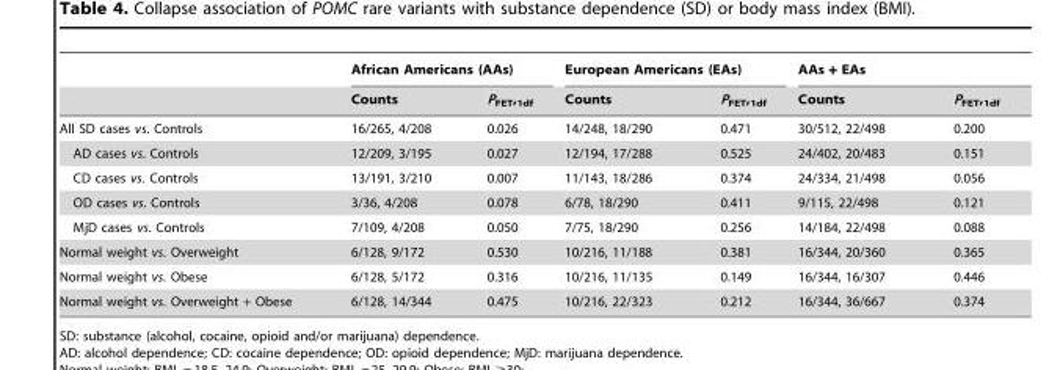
<table><thead><tr><td rowspan="2"></td><td colspan="2">African Americans (AAs)</td><td colspan="2">European Americans (EAs)</td><td colspan="2">AAs + EAs</td></tr><tr><td>Counts</td><td>P<sub>FET</sub>,<sub>1df</sub></td><td>Counts</td><td>P<sub>FET</sub>,<sub>1df</sub></td><td>Counts</td><td>P<sub>FET</sub>,<sub>1df</sub></td></tr></thead><tbody><tr><td>All SD cases vs. Controls</td><td>16/265, 4/208</td><td>0.026</td><td>14/248, 18/290</td><td>0.471</td><td>30/512, 22/498</td><td>0.200</td></tr><tr><td>AD cases vs. Controls</td><td>12/209, 3/195</td><td>0.027</td><td>12/194, 17/288</td><td>0.525</td><td>24/402, 20/483</td><td>0.151</td></tr><tr><td>CD cases vs. Controls</td><td>13/191, 3/210</td><td>0.007</td><td>11/143, 18/286</td><td>0.374</td><td>24/334, 21/498</td><td>0.056</td></tr><tr><td>OD cases vs. Controls</td><td>3/36, 4/208</td><td>0.078</td><td>6/78, 18/290</td><td>0.411</td><td>9/115, 22/498</td><td>0.121</td></tr><tr><td>MjD cases vs. Controls</td><td>7/109, 4/208</td><td>0.050</td><td>7/75, 18/290</td><td>0.256</td><td>14/184, 22/498</td><td>0.088</td></tr><tr><td>Normal weight vs. Overweight</td><td>6/128, 9/172</td><td>0.530</td><td>10/216, 11/188</td><td>0.381</td><td>16/344, 20/360</td><td>0.365</td></tr><tr><td>Normal weight vs. Obese</td><td>6/128, 5/172</td><td>0.316</td><td>10/216, 11/135</td><td>0.149</td><td>16/344, 16/307</td><td>0.446</td></tr><tr><td>Normal weight vs. Overweight + Obese</td><td>6/128, 14/344</td><td>0.475</td><td>10/216, 22/323</td><td>0.212</td><td>16/344, 36/667</td><td>0.374</td></tr></tbody></table>